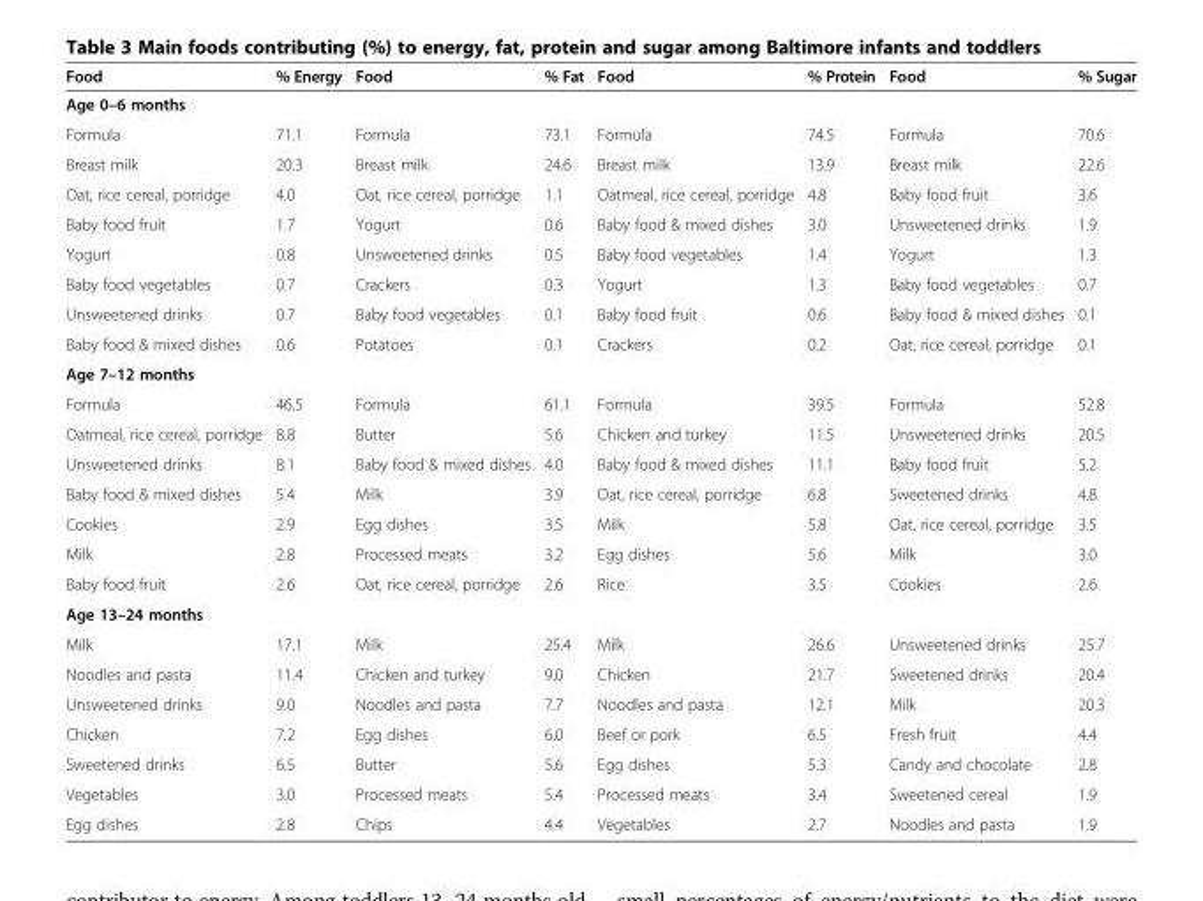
<table><thead><tr><td>Food</td><td>% Energy</td><td>Food</td><td>% Fat</td><td>Food</td><td>% Protein</td><td>Food</td><td>% Sugar</td></tr></thead><tbody><tr><td colspan="8">Age 0–6 months</td></tr><tr><td>Formula</td><td>71.1</td><td>Formula</td><td>73.1</td><td>Formula</td><td>74.5</td><td>Formula</td><td>70.6</td></tr><tr><td>Breast milk</td><td>20.3</td><td>Breast milk</td><td>24.6</td><td>Breast milk</td><td>13.9</td><td>Breast milk</td><td>22.6</td></tr><tr><td>Oat, rice cereal, porridge</td><td>4.0</td><td>Oat, rice cereal, porridge</td><td>1.1</td><td>Oatmeal, rice cereal, porridge</td><td>4.8</td><td>Baby food fruit</td><td>3.6</td></tr><tr><td>Baby food fruit</td><td>1.7</td><td>Yogurt</td><td>0.6</td><td>Baby food &amp; mixed dishes</td><td>3.0</td><td>Unsweetened drinks</td><td>1.9</td></tr><tr><td>Yogurt</td><td>0.8</td><td>Unsweetened drinks</td><td>0.5</td><td>Baby food vegetables</td><td>1.4</td><td>Yogurt</td><td>1.3</td></tr><tr><td>Baby food vegetables</td><td>0.7</td><td>Crackers</td><td>0.3</td><td>Yogurt</td><td>1.3</td><td>Baby food vegetables</td><td>0.7</td></tr><tr><td>Unsweetened drinks</td><td>0.7</td><td>Baby food vegetables</td><td>0.1</td><td>Baby food fruit</td><td>0.6</td><td>Baby food &amp; mixed dishes</td><td>0.1</td></tr><tr><td>Baby food &amp; mixed dishes</td><td>0.6</td><td>Potatoes</td><td>0.1</td><td>Crackers</td><td>0.2</td><td>Oat, rice cereal, porridge</td><td>0.1</td></tr><tr><td colspan="8">Age 7–12 months</td></tr><tr><td>Formula</td><td>46.5</td><td>Formula</td><td>61.1</td><td>Formula</td><td>39.5</td><td>Formula</td><td>52.8</td></tr><tr><td>Oatmeal, rice cereal, porridge</td><td>8.8</td><td>Butter</td><td>5.6</td><td>Chicken and turkey</td><td>11.5</td><td>Unsweetened drinks</td><td>20.5</td></tr><tr><td>Unsweetened drinks</td><td>8.1</td><td>Baby food &amp; mixed dishes</td><td>4.0</td><td>Baby food &amp; mixed dishes</td><td>11.1</td><td>Baby food fruit</td><td>5.2</td></tr><tr><td>Baby food &amp; mixed dishes</td><td>5.4</td><td>Milk</td><td>3.9</td><td>Oat, rice cereal, porridge</td><td>6.8</td><td>Sweetened drinks</td><td>4.8</td></tr><tr><td>Cookies</td><td>2.9</td><td>Egg dishes</td><td>3.5</td><td>Milk</td><td>5.8</td><td>Oat, rice cereal, porridge</td><td>3.5</td></tr><tr><td>Milk</td><td>2.8</td><td>Processed meats</td><td>3.2</td><td>Egg dishes</td><td>5.6</td><td>Milk</td><td>3.0</td></tr><tr><td>Baby food fruit</td><td>2.6</td><td>Oat, rice cereal, porridge</td><td>2.6</td><td>Rice</td><td>3.5</td><td>Cookies</td><td>2.6</td></tr><tr><td colspan="8">Age 13–24 months</td></tr><tr><td>Milk</td><td>17.1</td><td>Milk</td><td>25.4</td><td>Milk</td><td>26.6</td><td>Unsweetened drinks</td><td>25.7</td></tr><tr><td>Noodles and pasta</td><td>11.4</td><td>Chicken and turkey</td><td>9.0</td><td>Chicken</td><td>21.7</td><td>Sweetened drinks</td><td>20.4</td></tr><tr><td>Unsweetened drinks</td><td>9.0</td><td>Noodles and pasta</td><td>7.7</td><td>Noodles and pasta</td><td>12.1</td><td>Milk</td><td>20.3</td></tr><tr><td>Chicken</td><td>7.2</td><td>Egg dishes</td><td>6.0</td><td>Beef or pork</td><td>6.5</td><td>Fresh fruit</td><td>4.4</td></tr><tr><td>Sweetened drinks</td><td>6.5</td><td>Butter</td><td>5.6</td><td>Egg dishes</td><td>5.3</td><td>Candy and chocolate</td><td>2.8</td></tr><tr><td>Vegetables</td><td>3.0</td><td>Processed meats</td><td>5.4</td><td>Processed meats</td><td>3.4</td><td>Sweetened cereal</td><td>1.9</td></tr><tr><td>Egg dishes</td><td>2.8</td><td>Chips</td><td>4.4</td><td>Vegetables</td><td>2.7</td><td>Noodles and pasta</td><td>1.9</td></tr></tbody></table>